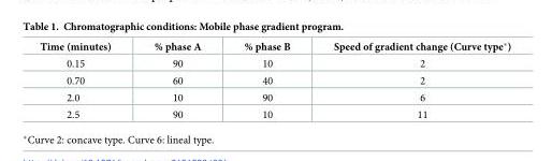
<table><thead><tr><td>Time (minutes)</td><td>% phase A</td><td>% phase B</td><td>Speed of gradient change (Curve type*)</td></tr></thead><tbody><tr><td>0.15</td><td>90</td><td>10</td><td>2</td></tr><tr><td>0.70</td><td>60</td><td>40</td><td>2</td></tr><tr><td>2.0</td><td>10</td><td>90</td><td>6</td></tr><tr><td>2.5</td><td>90</td><td>10</td><td>11</td></tr></tbody></table>